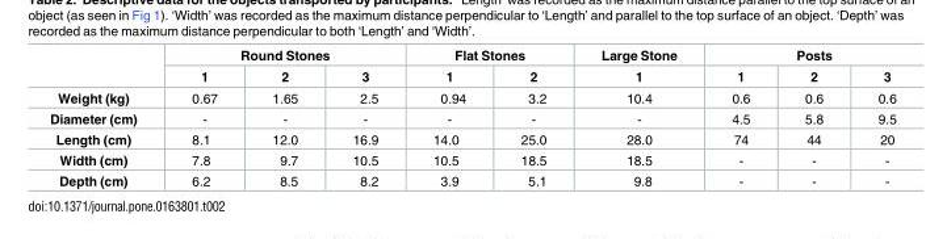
<table><thead><tr><td rowspan="2"></td><td colspan="3">Round Stones</td><td colspan="2">Flat Stones</td><td rowspan="2">Large Stone 1</td><td colspan="3">Posts</td></tr><tr><td>1</td><td>2</td><td>3</td><td>1</td><td>2</td><td>1</td><td>2</td><td>3</td></tr></thead><tbody><tr><td>Weight (kg)</td><td>0.67</td><td>1.65</td><td>2.5</td><td>0.94</td><td>3.2</td><td>10.4</td><td>0.6</td><td>0.6</td><td>0.6</td></tr><tr><td>Diameter (cm)</td><td>-</td><td>-</td><td>-</td><td>-</td><td>-</td><td>-</td><td>4.5</td><td>5.8</td><td>9.5</td></tr><tr><td>Length (cm)</td><td>8.1</td><td>12.0</td><td>16.9</td><td>14.0</td><td>25.0</td><td>28.0</td><td>74</td><td>44</td><td>20</td></tr><tr><td>Width (cm)</td><td>7.8</td><td>9.7</td><td>10.5</td><td>10.5</td><td>18.5</td><td>18.5</td><td>-</td><td>-</td><td>-</td></tr><tr><td>Depth (cm)</td><td>6.2</td><td>8.5</td><td>8.2</td><td>3.9</td><td>5.1</td><td>9.8</td><td>-</td><td>-</td><td>-</td></tr></tbody></table>